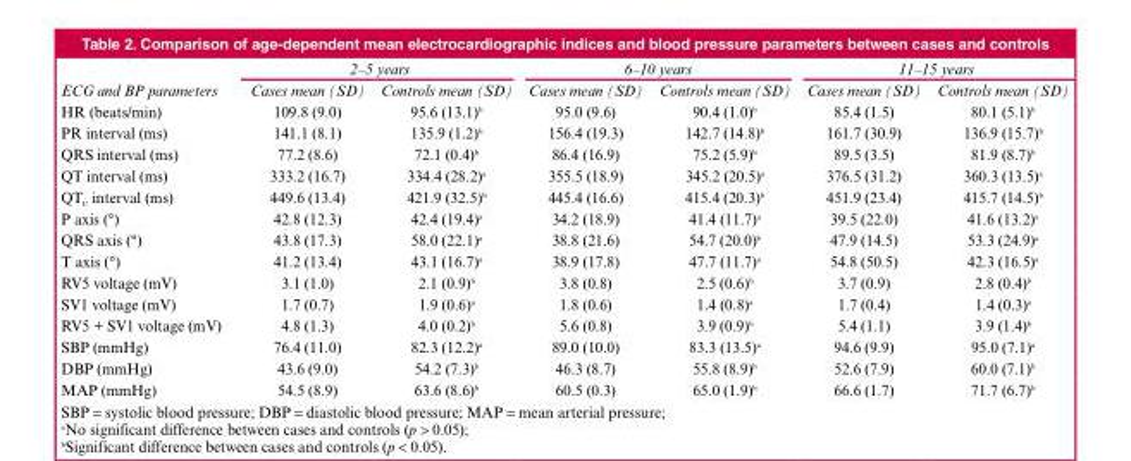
<table><thead><tr><td rowspan="2">ECG and BP parameters</td><td colspan="2">2–5 years</td><td colspan="2">6–10 years</td><td colspan="2">11–15 years</td></tr><tr><td>Cases mean (SD)</td><td>Controls mean (SD)</td><td>Cases mean (SD)</td><td>Controls mean (SD)</td><td>Cases mean (SD)</td><td>Controls mean (SD)</td></tr></thead><tbody><tr><td>HR (beats/min)</td><td>109.8 (9.0)</td><td>95.6 (13.1)<sup>b</sup></td><td>95.0 (9.6)</td><td>90.4 (1.0)<sup>b</sup></td><td>85.4 (1.5)</td><td>80.1 (5.1)<sup>b</sup></td></tr><tr><td>PR interval (ms)</td><td>141.1 (8.1)</td><td>135.9 (1.2)<sup>b</sup></td><td>156.4 (19.3)</td><td>142.7 (14.8)<sup>b</sup></td><td>161.7 (30.9)</td><td>136.9 (15.7)<sup>b</sup></td></tr><tr><td>QRS interval (ms)</td><td>77.2 (8.6)</td><td>72.1 (0.4)<sup>b</sup></td><td>86.4 (16.9)</td><td>75.2 (5.9)<sup>b</sup></td><td>89.5 (3.5)</td><td>81.9 (8.7)<sup>b</sup></td></tr><tr><td>QT interval (ms)</td><td>333.2 (16.7)</td><td>334.4 (28.2)<sup>a</sup></td><td>355.5 (18.9)</td><td>345.2 (20.5)<sup>a</sup></td><td>376.5 (31.2)</td><td>360.3 (13.5)<sup>a</sup></td></tr><tr><td>QT<sub>C</sub> interval (ms)</td><td>449.6 (13.4)</td><td>421.9 (32.5)<sup>b</sup></td><td>445.4 (16.6)</td><td>415.4 (20.3)<sup>b</sup></td><td>451.9 (23.4)</td><td>415.7 (14.5)<sup>b</sup></td></tr><tr><td>P axis (°)</td><td>42.8 (12.3)</td><td>42.4 (19.4)<sup>a</sup></td><td>34.2 (18.9)</td><td>41.4 (11.7)<sup>a</sup></td><td>39.5 (22.0)</td><td>41.6 (13.2)<sup>a</sup></td></tr><tr><td>QRS axis (°)</td><td>43.8 (17.3)</td><td>58.0 (22.1)<sup>a</sup></td><td>38.8 (21.6)</td><td>54.7 (20.0)<sup>b</sup></td><td>47.9 (14.5)</td><td>53.3 (24.9)<sup>a</sup></td></tr><tr><td>T axis (°)</td><td>41.2 (13.4)</td><td>43.1 (16.7)<sup>a</sup></td><td>38.9 (17.8)</td><td>47.7 (11.7)<sup>a</sup></td><td>54.8 (50.5)</td><td>42.3 (16.5)<sup>a</sup></td></tr><tr><td>RV5 voltage (mV)</td><td>3.1 (1.0)</td><td>2.1 (0.9)<sup>b</sup></td><td>3.8 (0.8)</td><td>2.5 (0.6)<sup>b</sup></td><td>3.7 (0.9)</td><td>2.8 (0.4)<sup>b</sup></td></tr><tr><td>SV1 voltage (mV)</td><td>1.7 (0.7)</td><td>1.9 (0.6)<sup>a</sup></td><td>1.8 (0.6)</td><td>1.4 (0.8)<sup>a</sup></td><td>1.7 (0.4)</td><td>1.4 (0.3)<sup>a</sup></td></tr><tr><td>RV5 + SV1 voltage (mV)</td><td>4.8 (1.3)</td><td>4.0 (0.2)<sup>b</sup></td><td>5.6 (0.8)</td><td>3.9 (0.9)<sup>b</sup></td><td>5.4 (1.1)</td><td>3.9 (1.4)<sup>b</sup></td></tr><tr><td>SBP (mmHg)</td><td>76.4 (11.0)</td><td>82.3 (12.2)<sup>a</sup></td><td>89.0 (10.0)</td><td>83.3 (13.5)<sup>a</sup></td><td>94.6 (9.9)</td><td>95.0 (7.1)<sup>a</sup></td></tr><tr><td>DBP (mmHg)</td><td>43.6 (9.0)</td><td>54.2 (7.3)<sup>b</sup></td><td>46.3 (8.7)</td><td>55.8 (8.9)<sup>b</sup></td><td>52.6 (7.9)</td><td>60.0 (7.1)<sup>b</sup></td></tr><tr><td>MAP (mmHg)</td><td>54.5 (8.9)</td><td>63.6 (8.6)<sup>b</sup></td><td>60.5 (0.3)</td><td>65.0 (1.9)<sup>b</sup></td><td>66.6 (1.7)</td><td>71.7 (6.7)<sup>b</sup></td></tr></tbody></table>